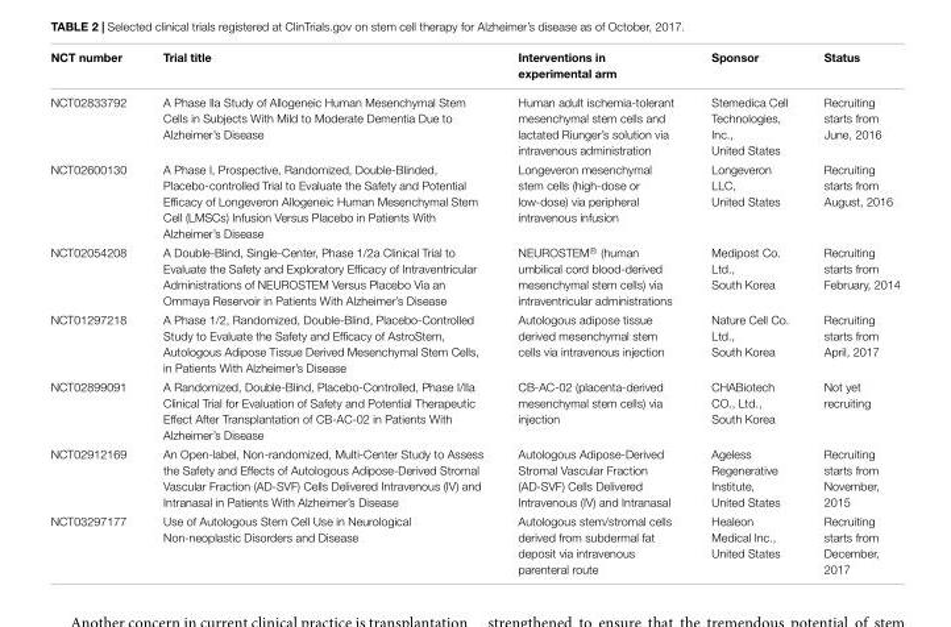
<table><thead><tr><td>NCT number</td><td>Trial title</td><td>Interventions in experimental arm</td><td>Sponsor</td><td>Status</td></tr></thead><tbody><tr><td>NCT02833792</td><td>A Phase IIa Study of Allogeneic Human Mesenchymal Stem Cells in Subjects With Mild to Moderate Dementia Due to Alzheimer’s Disease</td><td>Human adult ischemia-tolerant mesenchymal stem cells and lactated Riunger’s solution via intravenous administration</td><td>Stemedica Cell Technologies, Inc., United States</td><td>Recruiting starts from June, 2016</td></tr><tr><td>NCT02600130</td><td>A Phase I, Prospective, Randomized, Double-Blinded, Placebo-controlled Trial to Evaluate the Safety and Potential Efficacy of Longeveron Allogeneic Human Mesenchymal Stem Cell (LMSCs) Infusion Versus Placebo in Patients With Alzheimer’s Disease</td><td>Longeveron mesenchymal stem cells (high-dose or low-dose) via peripheral intravenous infusion</td><td>Longeveron LLC, United States</td><td>Recruiting starts from August, 2016</td></tr><tr><td>NCT02054208</td><td>A Double-Blind, Single-Center, Phase 1/2a Clinical Trial to Evaluate the Safety and Exploratory Efficacy of Intraventricular Administrations of NEUROSTEM Versus Placebo Via an Ommaya Reservoir in Patients With Alzheimer’s Disease</td><td>NEUROSTEM R⃝ (human umbilical cord blood-derived mesenchymal stem cells) via intraventricular administrations</td><td>Medipost Co. Ltd., South Korea</td><td>Recruiting starts from February, 2014</td></tr><tr><td>NCT01297218</td><td>A Phase 1/2, Randomized, Double-Blind, Placebo-Controlled Study to Evaluate the Safety and Efficacy of AstroStem, Autologous Adipose Tissue Derived Mesenchymal Stem Cells, in Patients With Alzheimer’s Disease</td><td>Autologous adipose tissue derived mesenchymal stem cells via intravenous injection</td><td>Nature Cell Co. Ltd., South Korea</td><td>Recruiting starts from April, 2017</td></tr><tr><td>NCT02899091</td><td>A Randomized, Double-Blind, Placebo-Controlled, Phase I/IIa Clinical Trial for Evaluation of Safety and Potential Therapeutic Effect After Transplantation of CB-AC-02 in Patients With Alzheimer’s Disease</td><td>CB-AC-02 (placenta-derived mesenchymal stem cells) via injection</td><td>CHABiotech CO., Ltd., South Korea</td><td>Not yet recruiting</td></tr><tr><td>NCT02912169</td><td>An Open-label, Non-randomized, Multi-Center Study to Assess the Safety and Effects of Autologous Adipose-Derived Stromal Vascular Fraction (AD-SVF) Cells Delivered Intravenous (IV) and Intranasal in Patients With Alzheimer’s Disease</td><td>Autologous Adipose-Derived Stromal Vascular Fraction (AD-SVF) Cells Delivered Intravenous (IV) and Intranasal</td><td>Ageless Regenerative Institute, United States</td><td>Recruiting starts from November, 2015</td></tr><tr><td>NCT03297177</td><td>Use of Autologous Stem Cell Use in Neurological Non-neoplastic Disorders and Disease</td><td>Autologous stem/stromal cells derived from subdermal fat deposit via intravenous parenteral route</td><td>Healeon Medical Inc., United States</td><td>Recruiting starts from December, 2017</td></tr></tbody></table>